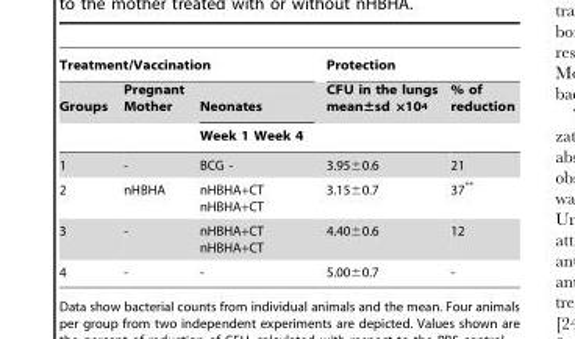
<table><thead><tr><td colspan="3">Treatment/Vaccination</td><td colspan="2">Protection</td></tr><tr><td rowspan="2">Groups</td><td rowspan="2">Pregnant Mother</td><td rowspan="2">Neonates Week 1 Week 4</td><td rowspan="2">CFU in the lungs mean±sd ×10<sup>4</sup></td><td rowspan="2">% of reduction</td></tr><tr></tr></thead><tbody><tr><td>1</td><td>-</td><td>BCG -</td><td>3.95±0.6</td><td>21</td></tr><tr><td>2</td><td>nHBHA</td><td>nHBHA+CT nHBHA+CT</td><td>3.15±0.7</td><td>37**</td></tr><tr><td>3</td><td>-</td><td>nHBHA+CT nHBHA+CT</td><td>4.40±0.6</td><td>12</td></tr><tr><td>4</td><td>-</td><td>-</td><td>5.00±0.7</td><td>-</td></tr></tbody></table>